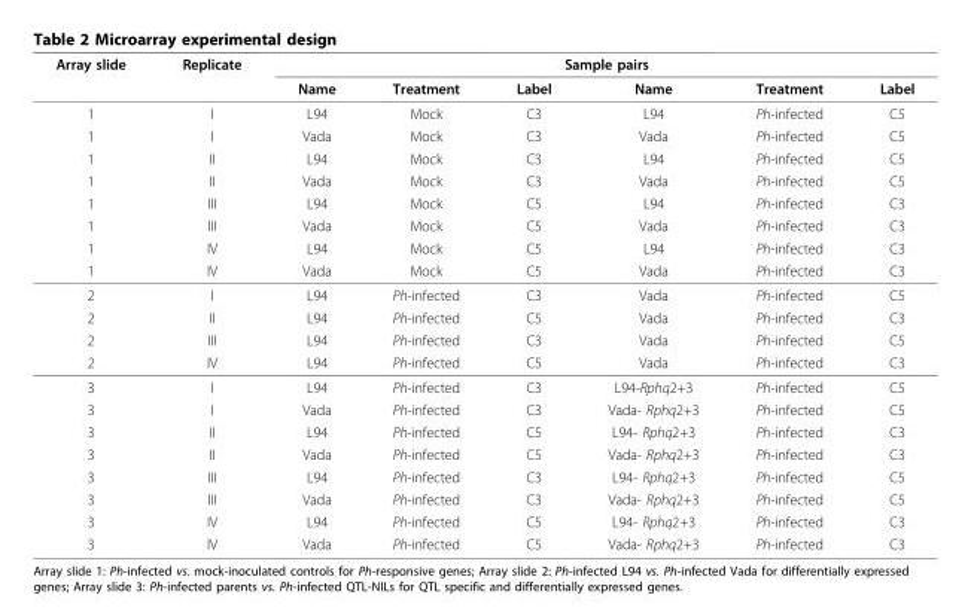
<table><thead><tr><td rowspan="2">Array slide</td><td rowspan="2">Replicate</td><td colspan="6">Sample pairs</td></tr><tr><td>Name</td><td>Treatment</td><td>Label</td><td>Name</td><td>Treatment</td><td>Label</td></tr></thead><tbody><tr><td>1</td><td>I</td><td>L94</td><td>Mock</td><td>C3</td><td>L94</td><td>Ph-infected</td><td>C5</td></tr><tr><td>1</td><td>I</td><td>Vada</td><td>Mock</td><td>C3</td><td>Vada</td><td>Ph-infected</td><td>C5</td></tr><tr><td>1</td><td>II</td><td>L94</td><td>Mock</td><td>C3</td><td>L94</td><td>Ph-infected</td><td>C5</td></tr><tr><td>1</td><td>II</td><td>Vada</td><td>Mock</td><td>C3</td><td>Vada</td><td>Ph-infected</td><td>C5</td></tr><tr><td>1</td><td>III</td><td>L94</td><td>Mock</td><td>C5</td><td>L94</td><td>Ph-infected</td><td>C3</td></tr><tr><td>1</td><td>III</td><td>Vada</td><td>Mock</td><td>C5</td><td>Vada</td><td>Ph-infected</td><td>C3</td></tr><tr><td>1</td><td>IV</td><td>L94</td><td>Mock</td><td>C5</td><td>L94</td><td>Ph-infected</td><td>C3</td></tr><tr><td>1</td><td>IV</td><td>Vada</td><td>Mock</td><td>C5</td><td>Vada</td><td>Ph-infected</td><td>C3</td></tr><tr><td>2</td><td>I</td><td>L94</td><td>Ph-infected</td><td>C3</td><td>Vada</td><td>Ph-infected</td><td>C5</td></tr><tr><td>2</td><td>II</td><td>L94</td><td>Ph-infected</td><td>C5</td><td>Vada</td><td>Ph-infected</td><td>C3</td></tr><tr><td>2</td><td>III</td><td>L94</td><td>Ph-infected</td><td>C3</td><td>Vada</td><td>Ph-infected</td><td>C5</td></tr><tr><td>2</td><td>IV</td><td>L94</td><td>Ph-infected</td><td>C5</td><td>Vada</td><td>Ph-infected</td><td>C3</td></tr><tr><td>3</td><td>I</td><td>L94</td><td>Ph-infected</td><td>C3</td><td>L94-Rphq2+3</td><td>Ph-infected</td><td>C5</td></tr><tr><td>3</td><td>I</td><td>Vada</td><td>Ph-infected</td><td>C3</td><td>Vada- Rphq2+3</td><td>Ph-infected</td><td>C5</td></tr><tr><td>3</td><td>II</td><td>L94</td><td>Ph-infected</td><td>C5</td><td>L94- Rphq2+3</td><td>Ph-infected</td><td>C3</td></tr><tr><td>3</td><td>II</td><td>Vada</td><td>Ph-infected</td><td>C5</td><td>Vada- Rphq2+3</td><td>Ph-infected</td><td>C3</td></tr><tr><td>3</td><td>III</td><td>L94</td><td>Ph-infected</td><td>C3</td><td>L94- Rphq2+3</td><td>Ph-infected</td><td>C5</td></tr><tr><td>3</td><td>III</td><td>Vada</td><td>Ph-infected</td><td>C3</td><td>Vada- Rphq2+3</td><td>Ph-infected</td><td>C5</td></tr><tr><td>3</td><td>IV</td><td>L94</td><td>Ph-infected</td><td>C5</td><td>L94- Rphq2+3</td><td>Ph-infected</td><td>C3</td></tr><tr><td>3</td><td>IV</td><td>Vada</td><td>Ph-infected</td><td>C5</td><td>Vada- Rphq2+3</td><td>Ph-infected</td><td>C3</td></tr></tbody></table>